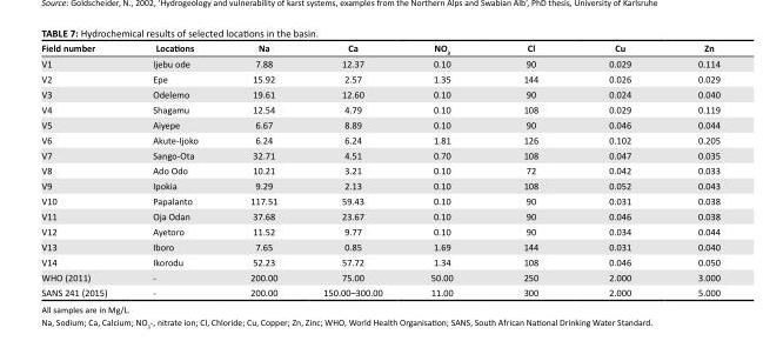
<table><thead><tr><td>Field number</td><td>Locations</td><td>Na</td><td>Ca</td><td>NO<sub>3</sub></td><td>Cl</td><td>Cu</td><td>Zn</td></tr></thead><tbody><tr><td>V1</td><td>Ijebu ode</td><td>7.88</td><td>12.37</td><td>0.10</td><td>90</td><td>0.029</td><td>0.114</td></tr><tr><td>V2</td><td>Epe</td><td>15.92</td><td>2.57</td><td>1.35</td><td>144</td><td>0.026</td><td>0.029</td></tr><tr><td>V3</td><td>Odelemo</td><td>19.61</td><td>12.60</td><td>0.10</td><td>90</td><td>0.024</td><td>0.040</td></tr><tr><td>V4</td><td>Shagamu</td><td>12.54</td><td>4.79</td><td>0.10</td><td>108</td><td>0.029</td><td>0.119</td></tr><tr><td>V5</td><td>Aiyepe</td><td>6.67</td><td>8.89</td><td>0.10</td><td>90</td><td>0.046</td><td>0.044</td></tr><tr><td>V6</td><td>Akute-Ijoko</td><td>6.24</td><td>6.24</td><td>1.81</td><td>126</td><td>0.102</td><td>0.205</td></tr><tr><td>V7</td><td>Sango-Ota</td><td>32.71</td><td>4.51</td><td>0.70</td><td>108</td><td>0.047</td><td>0.035</td></tr><tr><td>V8</td><td>Ado Odo</td><td>10.21</td><td>3.21</td><td>0.10</td><td>72</td><td>0.042</td><td>0.033</td></tr><tr><td>V9</td><td>Ipokia</td><td>9.29</td><td>2.13</td><td>0.10</td><td>108</td><td>0.052</td><td>0.043</td></tr><tr><td>V10</td><td>Papalanto</td><td>117.51</td><td>59.43</td><td>0.10</td><td>90</td><td>0.031</td><td>0.038</td></tr><tr><td>V11</td><td>Oja Odan</td><td>37.68</td><td>23.67</td><td>0.10</td><td>90</td><td>0.046</td><td>0.038</td></tr><tr><td>V12</td><td>Ayetoro</td><td>11.52</td><td>9.77</td><td>0.10</td><td>90</td><td>0.034</td><td>0.044</td></tr><tr><td>V13</td><td>Iboro</td><td>7.65</td><td>0.85</td><td>1.69</td><td>144</td><td>0.031</td><td>0.040</td></tr><tr><td>V14</td><td>Ikorodu</td><td>52.23</td><td>57.72</td><td>1.34</td><td>108</td><td>0.046</td><td>0.050</td></tr><tr><td>WHO (2011)</td><td>-</td><td>200.00</td><td>75.00</td><td>50.00</td><td>250</td><td>2.000</td><td>3.000</td></tr><tr><td>SANS 241 (2015)</td><td>-</td><td>200.00</td><td>150.00–300.00</td><td>11.00</td><td>300</td><td>2.000</td><td>5.000</td></tr></tbody></table>